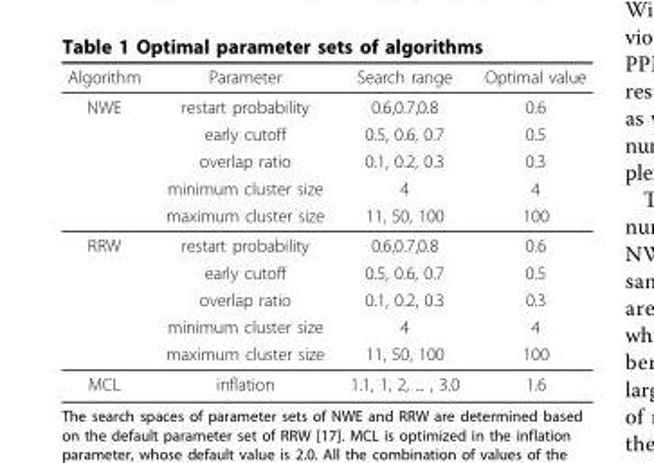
<table><thead><tr><td>Algorithm</td><td>Parameter</td><td>Search range</td><td>Optimal value</td></tr></thead><tbody><tr><td rowspan="5">NWE</td><td>restart probability</td><td>0.6,0.7,0.8</td><td>0.6</td></tr><tr><td>early cutoff</td><td>0.5, 0.6, 0.7</td><td>0.5</td></tr><tr><td>overlap ratio</td><td>0.1, 0.2, 0.3</td><td>0.3</td></tr><tr><td>minimum cluster size</td><td>4</td><td>4</td></tr><tr><td>maximum cluster size</td><td>11, 50, 100</td><td>100</td></tr><tr><td rowspan="5">RRW</td><td>restart probability</td><td>0.6,0.7,0.8</td><td>0.6</td></tr><tr><td>early cutoff</td><td>0.5, 0.6, 0.7</td><td>0.5</td></tr><tr><td>overlap ratio</td><td>0.1, 0.2, 0.3</td><td>0.3</td></tr><tr><td>minimum cluster size</td><td>4</td><td>4</td></tr><tr><td>maximum cluster size</td><td>11, 50, 100</td><td>100</td></tr><tr><td>MCL</td><td>inflation</td><td>1.1, 1, 2, ... , 3.0</td><td>1.6</td></tr></tbody></table>